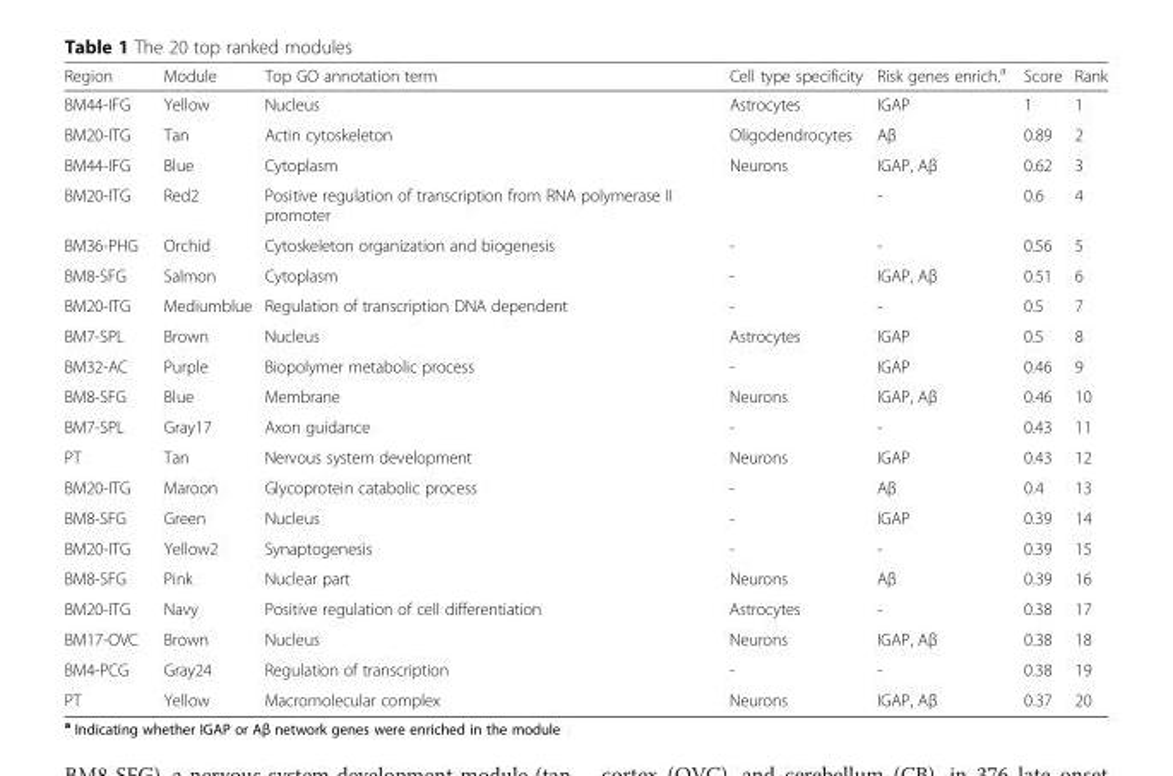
<table><thead><tr><td>Region</td><td>Module</td><td>Top GO annotation term</td><td>Cell type specificity</td><td>Risk genes enrich.<sup>a</sup></td><td>Score</td><td>Rank</td></tr></thead><tbody><tr><td>BM44-IFG</td><td>Yellow</td><td>Nucleus</td><td>Astrocytes</td><td>IGAP</td><td>1</td><td>1</td></tr><tr><td>BM20-ITG</td><td>Tan</td><td>Actin cytoskeleton</td><td>Oligodendrocytes</td><td>Aβ</td><td>0.89</td><td>2</td></tr><tr><td>BM44-IFG</td><td>Blue</td><td>Cytoplasm</td><td>Neurons</td><td>IGAP, Aβ</td><td>0.62</td><td>3</td></tr><tr><td>BM20-ITG</td><td>Red2</td><td>Positive regulation of transcription from RNA polymerase II promoter</td><td></td><td>-</td><td>0.6</td><td>4</td></tr><tr><td>BM36-PHG</td><td>Orchid</td><td>Cytoskeleton organization and biogenesis</td><td>-</td><td>-</td><td>0.56</td><td>5</td></tr><tr><td>BM8-SFG</td><td>Salmon</td><td>Cytoplasm</td><td>-</td><td>IGAP, Aβ</td><td>0.51</td><td>6</td></tr><tr><td>BM20-ITG</td><td>Mediumblue</td><td>Regulation of transcription DNA dependent</td><td>-</td><td>-</td><td>0.5</td><td>7</td></tr><tr><td>BM7-SPL</td><td>Brown</td><td>Nucleus</td><td>Astrocytes</td><td>IGAP</td><td>0.5</td><td>8</td></tr><tr><td>BM32-AC</td><td>Purple</td><td>Biopolymer metabolic process</td><td>-</td><td>IGAP</td><td>0.46</td><td>9</td></tr><tr><td>BM8-SFG</td><td>Blue</td><td>Membrane</td><td>Neurons</td><td>IGAP, Aβ</td><td>0.46</td><td>10</td></tr><tr><td>BM7-SPL</td><td>Gray17</td><td>Axon guidance</td><td>-</td><td>-</td><td>0.43</td><td>11</td></tr><tr><td>PT</td><td>Tan</td><td>Nervous system development</td><td>Neurons</td><td>IGAP</td><td>0.43</td><td>12</td></tr><tr><td>BM20-ITG</td><td>Maroon</td><td>Glycoprotein catabolic process</td><td>-</td><td>Aβ</td><td>0.4</td><td>13</td></tr><tr><td>BM8-SFG</td><td>Green</td><td>Nucleus</td><td>-</td><td>IGAP</td><td>0.39</td><td>14</td></tr><tr><td>BM20-ITG</td><td>Yellow2</td><td>Synaptogenesis</td><td>-</td><td>-</td><td>0.39</td><td>15</td></tr><tr><td>BM8-SFG</td><td>Pink</td><td>Nuclear part</td><td>Neurons</td><td>Aβ</td><td>0.39</td><td>16</td></tr><tr><td>BM20-ITG</td><td>Navy</td><td>Positive regulation of cell differentiation</td><td>Astrocytes</td><td>-</td><td>0.38</td><td>17</td></tr><tr><td>BM17-OVC</td><td>Brown</td><td>Nucleus</td><td>Neurons</td><td>IGAP, Aβ</td><td>0.38</td><td>18</td></tr><tr><td>BM4-PCG</td><td>Gray24</td><td>Regulation of transcription</td><td>-</td><td>-</td><td>0.38</td><td>19</td></tr><tr><td>PT</td><td>Yellow</td><td>Macromolecular complex</td><td>Neurons</td><td>IGAP, Aβ</td><td>0.37</td><td>20</td></tr></tbody></table>